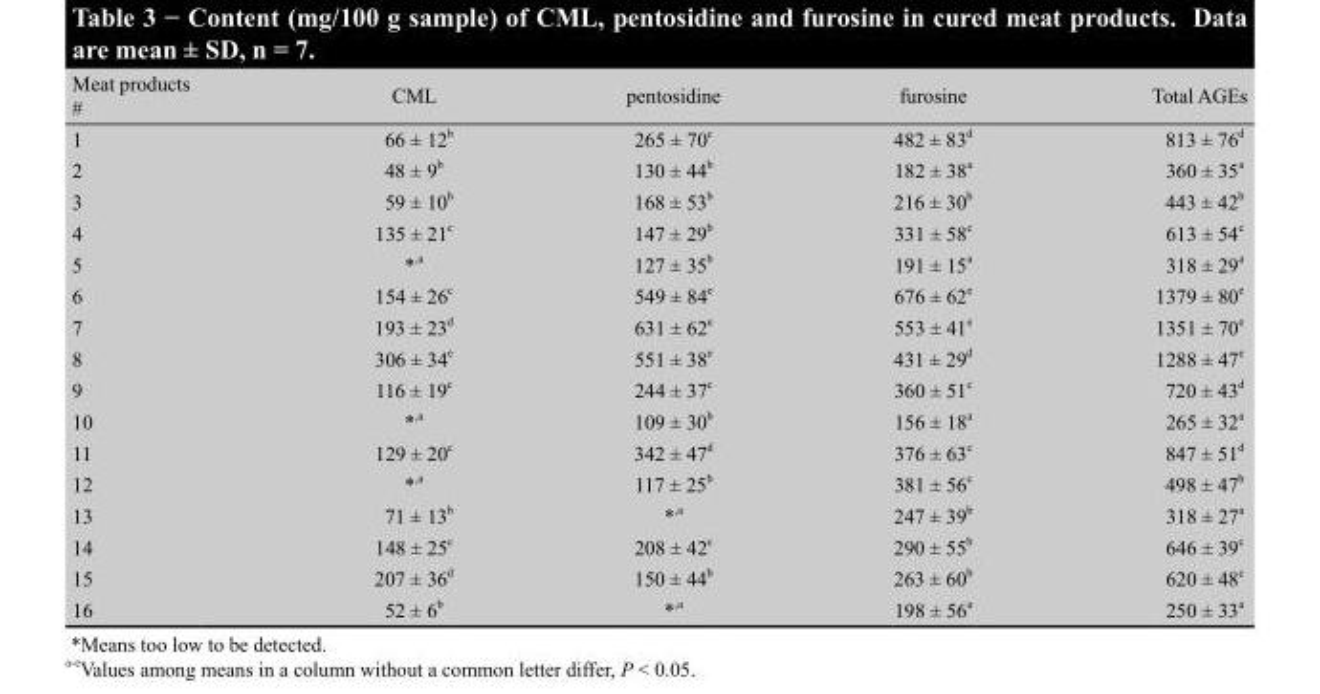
<table><thead><tr><td>Meat products #</td><td>CML</td><td>pentosidine</td><td>furosine</td><td>Total AGEs</td></tr></thead><tbody><tr><td>1</td><td>66 ± 12 <sup>b</sup></td><td>265 ± 70 <sup>c</sup></td><td>482 ± 83 <sup>d</sup></td><td>813 ± 76 <sup>d</sup></td></tr><tr><td>2</td><td>48 ± 9 <sup>b</sup></td><td>130 ± 44 <sup>b</sup></td><td>182 ± 38 <sup>a</sup></td><td>360 ± 35 <sup>a</sup></td></tr><tr><td>3</td><td>59 ± 10 <sup>b</sup></td><td>168 ± 53 <sup>b</sup></td><td>216 ± 30 <sup>b</sup></td><td>443 ± 42 <sup>b</sup></td></tr><tr><td>4</td><td>135 ± 21 <sup>c</sup></td><td>147 ± 29 <sup>b</sup></td><td>331 ± 58 <sup>c</sup></td><td>613 ± 54 <sup>c</sup></td></tr><tr><td>5</td><td>* ,<sup>a</sup></td><td>127 ± 35 <sup>b</sup></td><td>191 ± 15 <sup>a</sup></td><td>318 ± 29 <sup>a</sup></td></tr><tr><td>6</td><td>154 ± 26 <sup>c</sup></td><td>549 ± 84 <sup>e</sup></td><td>676 ± 62 <sup>e</sup></td><td>1379 ± 80 <sup>e</sup></td></tr><tr><td>7</td><td>193 ± 23 <sup>d</sup></td><td>631 ± 62 <sup>e</sup></td><td>553 ± 41 <sup>e</sup></td><td>1351 ± 70 <sup>e</sup></td></tr><tr><td>8</td><td>306 ± 34 <sup>e</sup></td><td>551 ± 38 <sup>e</sup></td><td>431 ± 29 <sup>d</sup></td><td>1288 ± 47 <sup>e</sup></td></tr><tr><td>9</td><td>116 ± 19 <sup>c</sup></td><td>244 ± 37 <sup>c</sup></td><td>360 ± 51 <sup>c</sup></td><td>720 ± 43 <sup>d</sup></td></tr><tr><td>10</td><td>* ,<sup>a</sup></td><td>109 ± 30 <sup>b</sup></td><td>156 ± 18 <sup>a</sup></td><td>265 ± 32 <sup>a</sup></td></tr><tr><td>11</td><td>129 ± 20 <sup>c</sup></td><td>342 ± 47 <sup>d</sup></td><td>376 ± 63 <sup>c</sup></td><td>847 ± 51 <sup>d</sup></td></tr><tr><td>12</td><td>* ,<sup>a</sup></td><td>117 ± 25 <sup>b</sup></td><td>381 ± 56 <sup>c</sup></td><td>498 ± 47 <sup>b</sup></td></tr><tr><td>13</td><td>71 ± 13 <sup>b</sup></td><td>* ,<sup>a</sup></td><td>247 ± 39 <sup>b</sup></td><td>318 ± 27 <sup>a</sup></td></tr><tr><td>14</td><td>148 ± 25 <sup>c</sup></td><td>208 ± 42 <sup>c</sup></td><td>290 ± 55 <sup>b</sup></td><td>646 ± 39 <sup>c</sup></td></tr><tr><td>15</td><td>207 ± 36 <sup>d</sup></td><td>150 ± 44 <sup>b</sup></td><td>263 ± 60 <sup>b</sup></td><td>620 ± 48 <sup>c</sup></td></tr><tr><td>16</td><td>52 ± 6 <sup>b</sup></td><td>* ,<sup>a</sup></td><td>198 ± 56 <sup>a</sup></td><td>250 ± 33 <sup>a</sup></td></tr></tbody></table>